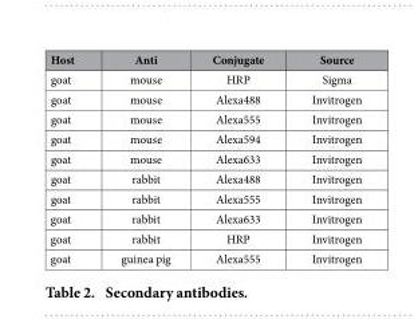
<table><thead><tr><td>Host</td><td>Anti</td><td>Conjugate</td><td>Source</td></tr></thead><tbody><tr><td>goat</td><td>mouse</td><td>HRP</td><td>Sigma</td></tr><tr><td>goat</td><td>mouse</td><td>Alexa488</td><td>Invitrogen</td></tr><tr><td>goat</td><td>mouse</td><td>Alexa555</td><td>Invitrogen</td></tr><tr><td>goat</td><td>mouse</td><td>Alexa594</td><td>Invitrogen</td></tr><tr><td>goat</td><td>mouse</td><td>Alexa633</td><td>Invitrogen</td></tr><tr><td>goat</td><td>rabbit</td><td>Alexa488</td><td>Invitrogen</td></tr><tr><td>goat</td><td>rabbit</td><td>Alexa555</td><td>Invitrogen</td></tr><tr><td>goat</td><td>rabbit</td><td>Alexa633</td><td>Invitrogen</td></tr><tr><td>goat</td><td>rabbit</td><td>HRP</td><td>Invitrogen</td></tr><tr><td>goat</td><td>guinea pig</td><td>Alexa555</td><td>Invitrogen</td></tr></tbody></table>